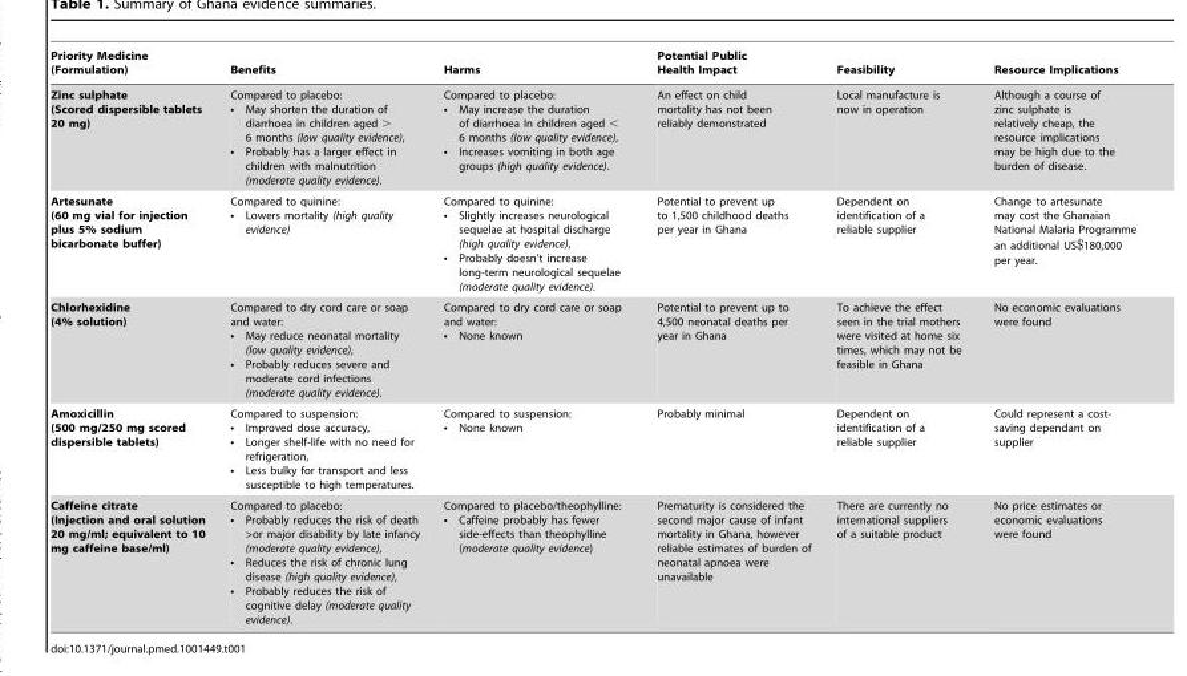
<table><thead><tr><td>Priority Medicine (Formulation)</td><td>Benefits</td><td>Harms</td><td>Potential Public Health Impact</td><td>Feasibility</td><td>Resource Implications</td></tr></thead><tbody><tr><td>Zinc sulphate (Scored dispersible tablets 20 mg)</td><td>Compared to placebo: • May shorten the duration of diarrhoea in children aged &gt; 6 months (low quality evidence), • Probably has a larger effect in children with malnutrition (moderate quality evidence).</td><td>Compared to placebo: • May increase the duration of diarrhoea In children aged &lt; 6 months (low quality evidence), • Increases vomiting in both age groups (high quality evidence).</td><td>An effect on child mortality has not been reliably demonstrated</td><td>Local manufacture is now in operation</td><td>Although a course of zinc sulphate is relatively cheap, the resource implications may be high due to the burden of disease.</td></tr><tr><td>Artesunate (60 mg vial for injection plus 5% sodium bicarbonate buffer)</td><td>Compared to quinine: • Lowers mortality (high quality evidence)</td><td>Compared to quinine: • Slightly increases neurological sequelae at hospital discharge (high quality evidence), • Probably doesn’t increase long-term neurological sequelae (moderate quality evidence).</td><td>Potential to prevent up to 1,500 childhood deaths per year in Ghana</td><td>Dependent on identification of a reliable supplier</td><td>Change to artesunate may cost the Ghanaian National Malaria Programme an additional US$180,000 per year.</td></tr><tr><td>Chlorhexidine (4% solution)</td><td>Compared to dry cord care or soap and water: • May reduce neonatal mortality (low quality evidence), • Probably reduces severe and moderate cord infections (moderate quality evidence).</td><td>Compared to dry cord care or soap and water: • None known</td><td>Potential to prevent up to 4,500 neonatal deaths per year in Ghana</td><td>To achieve the effect seen in the trial mothers were visited at home six times, which may not be feasible in Ghana</td><td>No economic evaluations were found</td></tr><tr><td>Amoxicillin (500 mg/250 mg scored dispersible tablets)</td><td>Compared to suspension: • Improved dose accuracy, • Longer shelf-life with no need for refrigeration, • Less bulky for transport and less susceptible to high temperatures.</td><td>Compared to suspension: • None known</td><td>Probably minimal</td><td>Dependent on identification of a reliable supplier</td><td>Could represent a cost- saving dependant on supplier</td></tr><tr><td>Caffeine citrate (Injection and oral solution 20 mg/ml; equivalent to 10 mg caffeine base/ml)</td><td>Compared to placebo: • Probably reduces the risk of death &gt;or major disability by late infancy (moderate quality evidence), • Reduces the risk of chronic lung disease (high quality evidence), • Probably reduces the risk of cognitive delay (moderate quality evidence).</td><td>Compared to placebo/theophylline: • Caffeine probably has fewer side-effects than theophylline (moderate quality evidence)</td><td>Prematurity is considered the second major cause of infant mortality in Ghana, however reliable estimates of burden of neonatal apnoea were unavailable</td><td>There are currently no international suppliers of a suitable product</td><td>No price estimates or economic evaluations were found</td></tr></tbody></table>